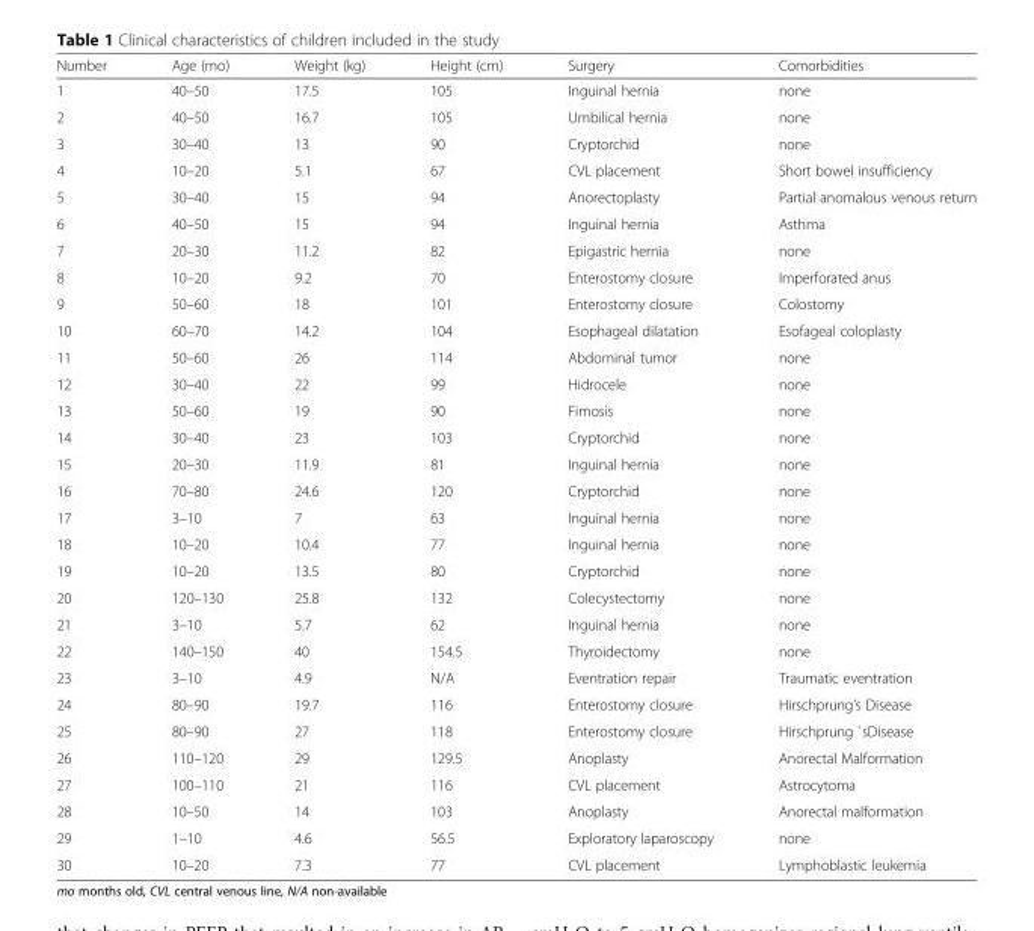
<table><thead><tr><td>Number</td><td>Age (mo)</td><td>Weight (kg)</td><td>Height (cm)</td><td>Surgery</td><td>Comorbidities</td></tr></thead><tbody><tr><td>1</td><td>40–50</td><td>17.5</td><td>105</td><td>Inguinal hernia</td><td>none</td></tr><tr><td>2</td><td>40–50</td><td>16.7</td><td>105</td><td>Umbilical hernia</td><td>none</td></tr><tr><td>3</td><td>30–40</td><td>13</td><td>90</td><td>Cryptorchid</td><td>none</td></tr><tr><td>4</td><td>10–20</td><td>5.1</td><td>67</td><td>CVL placement</td><td>Short bowel insufficiency</td></tr><tr><td>5</td><td>30–40</td><td>15</td><td>94</td><td>Anorectoplasty</td><td>Partial anomalous venous return</td></tr><tr><td>6</td><td>40–50</td><td>15</td><td>94</td><td>Inguinal hernia</td><td>Asthma</td></tr><tr><td>7</td><td>20–30</td><td>11.2</td><td>82</td><td>Epigastric hernia</td><td>none</td></tr><tr><td>8</td><td>10–20</td><td>9.2</td><td>70</td><td>Enterostomy closure</td><td>Imperforated anus</td></tr><tr><td>9</td><td>50–60</td><td>18</td><td>101</td><td>Enterostomy closure</td><td>Colostomy</td></tr><tr><td>10</td><td>60–70</td><td>14.2</td><td>104</td><td>Esophageal dilatation</td><td>Esofageal coloplasty</td></tr><tr><td>11</td><td>50–60</td><td>26</td><td>114</td><td>Abdominal tumor</td><td>none</td></tr><tr><td>12</td><td>30–40</td><td>22</td><td>99</td><td>Hidrocele</td><td>none</td></tr><tr><td>13</td><td>50–60</td><td>19</td><td>90</td><td>Fimosis</td><td>none</td></tr><tr><td>14</td><td>30–40</td><td>23</td><td>103</td><td>Cryptorchid</td><td>none</td></tr><tr><td>15</td><td>20–30</td><td>11.9</td><td>81</td><td>Inguinal hernia</td><td>none</td></tr><tr><td>16</td><td>70–80</td><td>24.6</td><td>120</td><td>Cryptorchid</td><td>none</td></tr><tr><td>17</td><td>3–10</td><td>7</td><td>63</td><td>Inguinal hernia</td><td>none</td></tr><tr><td>18</td><td>10–20</td><td>10.4</td><td>77</td><td>Inguinal hernia</td><td>none</td></tr><tr><td>19</td><td>10–20</td><td>13.5</td><td>80</td><td>Cryptorchid</td><td>none</td></tr><tr><td>20</td><td>120–130</td><td>25.8</td><td>132</td><td>Colecystectomy</td><td>none</td></tr><tr><td>21</td><td>3–10</td><td>5.7</td><td>62</td><td>Inguinal hernia</td><td>none</td></tr><tr><td>22</td><td>140–150</td><td>40</td><td>154.5</td><td>Thyroidectomy</td><td>none</td></tr><tr><td>23</td><td>3–10</td><td>4.9</td><td>N/A</td><td>Eventration repair</td><td>Traumatic eventration</td></tr><tr><td>24</td><td>80–90</td><td>19.7</td><td>116</td><td>Enterostomy closure</td><td>Hirschprung’s Disease</td></tr><tr><td>25</td><td>80–90</td><td>27</td><td>118</td><td>Enterostomy closure</td><td>Hirschprung `sDisease</td></tr><tr><td>26</td><td>110–120</td><td>29</td><td>129.5</td><td>Anoplasty</td><td>Anorectal Malformation</td></tr><tr><td>27</td><td>100–110</td><td>21</td><td>116</td><td>CVL placement</td><td>Astrocytoma</td></tr><tr><td>28</td><td>10–50</td><td>14</td><td>103</td><td>Anoplasty</td><td>Anorectal malformation</td></tr><tr><td>29</td><td>1–10</td><td>4.6</td><td>56.5</td><td>Exploratory laparoscopy</td><td>none</td></tr><tr><td>30</td><td>10–20</td><td>7.3</td><td>77</td><td>CVL placement</td><td>Lymphoblastic leukemia</td></tr></tbody></table>